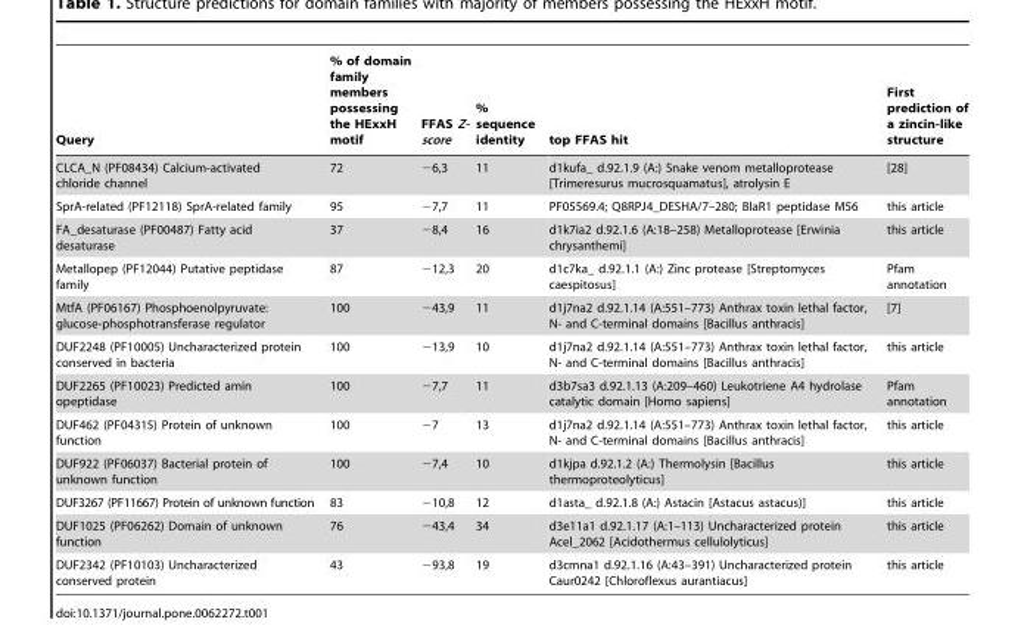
<table><thead><tr><td>Query</td><td>% of domain family members possessing the HExxH motif</td><td>FFAS Z- score</td><td>% sequence identity</td><td>top FFAS hit</td><td>First prediction of a zincin-like structure</td></tr></thead><tbody><tr><td>CLCA_N (PF08434) Calcium-activated chloride channel</td><td>72</td><td>−6,3</td><td>11</td><td>d1kufa_ d.92.1.9 (A:) Snake venom metalloprotease [Trimeresurus mucrosquamatus], atrolysin E</td><td>[28]</td></tr><tr><td>SprA-related (PF12118) SprA-related family</td><td>95</td><td>−7,7</td><td>11</td><td>PF05569.4; Q8RPJ4_DESHA/7–280; BlaR1 peptidase M56</td><td>this article</td></tr><tr><td>FA_desaturase (PF00487) Fatty acid desaturase</td><td>37</td><td>−8,4</td><td>16</td><td>d1k7ia2 d.92.1.6 (A:18–258) Metalloprotease [Erwinia chrysanthemi]</td><td>this article</td></tr><tr><td>Metallopep (PF12044) Putative peptidase family</td><td>87</td><td>−12,3</td><td>20</td><td>d1c7ka_ d.92.1.1 (A:) Zinc protease [Streptomyces caespitosus]</td><td>Pfam annotation</td></tr><tr><td>MtfA (PF06167) Phosphoenolpyruvate: glucose-phosphotransferase regulator</td><td>100</td><td>−43,9</td><td>11</td><td>d1j7na2 d.92.1.14 (A:551–773) Anthrax toxin lethal factor, N- and C-terminal domains [Bacillus anthracis]</td><td>[7]</td></tr><tr><td>DUF2248 (PF10005) Uncharacterized protein conserved in bacteria</td><td>100</td><td>−13,9</td><td>10</td><td>d1j7na2 d.92.1.14 (A:551–773) Anthrax toxin lethal factor, N- and C-terminal domains [Bacillus anthracis]</td><td>this article</td></tr><tr><td>DUF2265 (PF10023) Predicted amin opeptidase</td><td>100</td><td>−7,7</td><td>11</td><td>d3b7sa3 d.92.1.13 (A:209–460) Leukotriene A4 hydrolase catalytic domain [Homo sapiens]</td><td>Pfam annotation</td></tr><tr><td>DUF462 (PF04315) Protein of unknown function</td><td>100</td><td>−7</td><td>13</td><td>d1j7na2 d.92.1.14 (A:551–773) Anthrax toxin lethal factor, N- and C-terminal domains [Bacillus anthracis]</td><td>this article</td></tr><tr><td>DUF922 (PF06037) Bacterial protein of unknown function</td><td>100</td><td>−7,4</td><td>10</td><td>d1kjpa d.92.1.2 (A:) Thermolysin [Bacillus thermoproteolyticus]</td><td>this article</td></tr><tr><td>DUF3267 (PF11667) Protein of unknown function</td><td>83</td><td>−10,8</td><td>12</td><td>d1asta_ d.92.1.8 (A:) Astacin [Astacus astacus)]</td><td>this article</td></tr><tr><td>DUF1025 (PF06262) Domain of unknown function</td><td>76</td><td>−43,4</td><td>34</td><td>d3e11a1 d.92.1.17 (A:1–113) Uncharacterized protein Acel_2062 [Acidothermus cellulolyticus]</td><td>this article</td></tr><tr><td>DUF2342 (PF10103) Uncharacterized conserved protein</td><td>43</td><td>−93,8</td><td>19</td><td>d3cmna1 d.92.1.16 (A:43–391) Uncharacterized protein Caur0242 [Chloroflexus aurantiacus]</td><td>this article</td></tr></tbody></table>